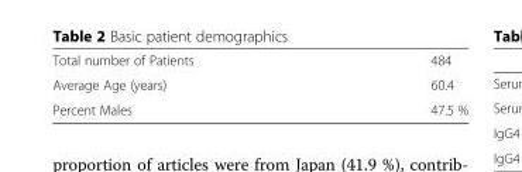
<table><tbody><tr><td>Total number of Patients</td><td>484</td></tr><tr><td>Average Age (years)</td><td>60.4</td></tr><tr><td>Percent Males</td><td>47.5 %</td></tr></tbody></table>